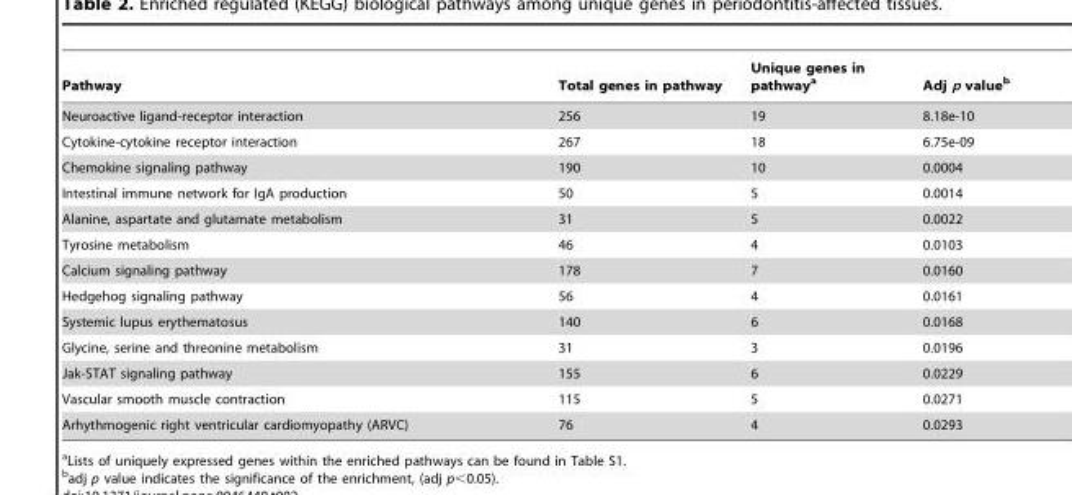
<table><thead><tr><td>Pathway</td><td>Total genes in pathway</td><td>Unique genes in pathway<sup>a</sup></td><td>Adj p value<sup>b</sup></td></tr></thead><tbody><tr><td>Neuroactive ligand-receptor interaction</td><td>256</td><td>19</td><td>8.18e-10</td></tr><tr><td>Cytokine-cytokine receptor interaction</td><td>267</td><td>18</td><td>6.75e-09</td></tr><tr><td>Chemokine signaling pathway</td><td>190</td><td>10</td><td>0.0004</td></tr><tr><td>Intestinal immune network for IgA production</td><td>50</td><td>5</td><td>0.0014</td></tr><tr><td>Alanine, aspartate and glutamate metabolism</td><td>31</td><td>5</td><td>0.0022</td></tr><tr><td>Tyrosine metabolism</td><td>46</td><td>4</td><td>0.0103</td></tr><tr><td>Calcium signaling pathway</td><td>178</td><td>7</td><td>0.0160</td></tr><tr><td>Hedgehog signaling pathway</td><td>56</td><td>4</td><td>0.0161</td></tr><tr><td>Systemic lupus erythematosus</td><td>140</td><td>6</td><td>0.0168</td></tr><tr><td>Glycine, serine and threonine metabolism</td><td>31</td><td>3</td><td>0.0196</td></tr><tr><td>Jak-STAT signaling pathway</td><td>155</td><td>6</td><td>0.0229</td></tr><tr><td>Vascular smooth muscle contraction</td><td>115</td><td>5</td><td>0.0271</td></tr><tr><td>Arhythmogenic right ventricular cardiomyopathy (ARVC)</td><td>76</td><td>4</td><td>0.0293</td></tr></tbody></table>